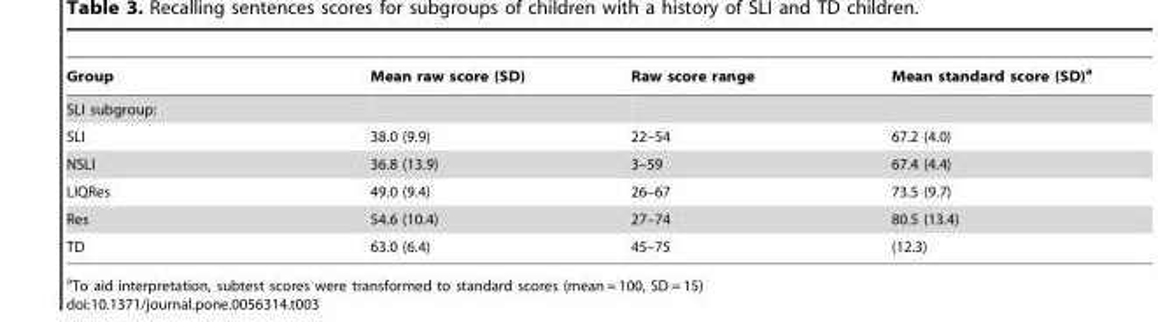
<table><thead><tr><td>Group</td><td>Mean raw score (SD)</td><td>Raw score range</td><td>Mean standard score (SD)<sup>a</sup></td></tr></thead><tbody><tr><td colspan="4">SLI subgroup:</td></tr><tr><td>SLI</td><td>38.0 (9.9)</td><td>22–54</td><td>67.2 (4.0)</td></tr><tr><td>NSLI</td><td>36.8 (13.9)</td><td>3–59</td><td>67.4 (4.4)</td></tr><tr><td>LIQRes</td><td>49.0 (9.4)</td><td>26–67</td><td>73.5 (9.7)</td></tr><tr><td>Res</td><td>54.6 (10.4)</td><td>27–74</td><td>80.5 (13.4)</td></tr><tr><td>TD</td><td>63.0 (6.4)</td><td>45–75</td><td>(12.3)</td></tr></tbody></table>